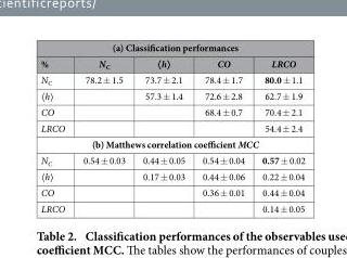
<table><thead><tr><td colspan="5">(a) Classification performances</td></tr><tr><td>%</td><td>N<sub>C</sub></td><td>〈h〉</td><td>CO</td><td>LRCO</td></tr></thead><tbody><tr><td>N<sub>C</sub></td><td>78.2 ± 1.5</td><td>73.7 ± 2.1</td><td>78.4 ± 1.7</td><td>80.0 ± 1.1</td></tr><tr><td>〈 h〉</td><td></td><td>57.3 ± 1.4</td><td>72.6 ± 2.8</td><td>62.7 ± 1.9</td></tr><tr><td>CO</td><td></td><td></td><td>68.4 ± 0.7</td><td>70.4 ± 2.1</td></tr><tr><td>LRCO</td><td></td><td></td><td></td><td>54.4 ± 2.4</td></tr><tr><td colspan="5">(b) Matthews correlation coefficient MCC</td></tr><tr><td>N<sub>C</sub></td><td>0.54 ± 0.03</td><td>0.44 ± 0.05</td><td>0.54 ± 0.04</td><td>0.57 ± 0.02</td></tr><tr><td>〈 h〉</td><td></td><td>0.17 ± 0.03</td><td>0.44 ± 0.06</td><td>0.22 ± 0.04</td></tr><tr><td>CO</td><td></td><td></td><td>0.36 ± 0.01</td><td>0.44 ± 0.04</td></tr><tr><td>LRCO</td><td></td><td></td><td></td><td>0.14 ± 0.05</td></tr></tbody></table>